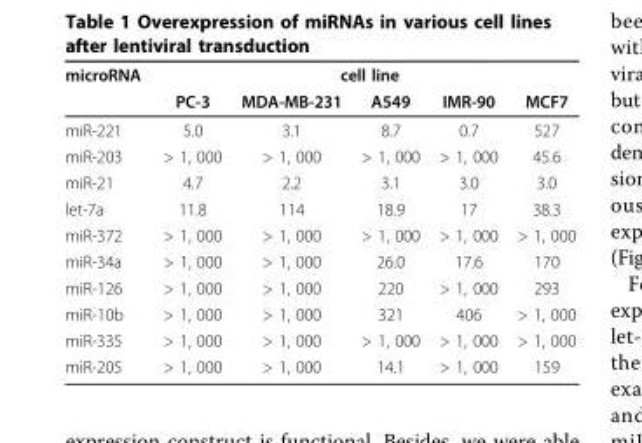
<table><thead><tr><td rowspan="2">microRNA</td><td colspan="5">cell line</td></tr><tr><td>PC-3</td><td>MDA-MB-231</td><td>A549</td><td>IMR-90</td><td>MCF7</td></tr></thead><tbody><tr><td>miR-221</td><td>5.0</td><td>3.1</td><td>8.7</td><td>0.7</td><td>527</td></tr><tr><td>miR-203</td><td>&gt; 1, 000</td><td>&gt; 1, 000</td><td>&gt; 1, 000</td><td>&gt; 1, 000</td><td>45.6</td></tr><tr><td>miR-21</td><td>4.7</td><td>2.2</td><td>3.1</td><td>3.0</td><td>3.0</td></tr><tr><td>let-7a</td><td>11.8</td><td>114</td><td>18.9</td><td>17</td><td>38.3</td></tr><tr><td>miR-372</td><td>&gt; 1, 000</td><td>&gt; 1, 000</td><td>&gt; 1, 000</td><td>&gt; 1, 000</td><td>&gt; 1, 000</td></tr><tr><td>miR-34a</td><td>&gt; 1, 000</td><td>&gt; 1, 000</td><td>26.0</td><td>17.6</td><td>170</td></tr><tr><td>miR-126</td><td>&gt; 1, 000</td><td>&gt; 1, 000</td><td>220</td><td>&gt; 1, 000</td><td>293</td></tr><tr><td>miR-10b</td><td>&gt; 1, 000</td><td>&gt; 1, 000</td><td>321</td><td>406</td><td>&gt; 1, 000</td></tr><tr><td>miR-335</td><td>&gt; 1, 000</td><td>&gt; 1, 000</td><td>&gt; 1, 000</td><td>&gt; 1, 000</td><td>&gt; 1, 000</td></tr><tr><td>miR-205</td><td>&gt; 1, 000</td><td>&gt; 1, 000</td><td>14.1</td><td>&gt; 1, 000</td><td>159</td></tr></tbody></table>